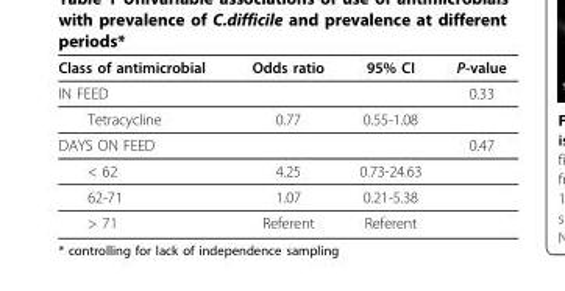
<table><thead><tr><td>Class of antimicrobial</td><td>Odds ratio</td><td>95% CI</td><td>P-value</td></tr></thead><tbody><tr><td>IN FEED</td><td></td><td></td><td>0.33</td></tr><tr><td>Tetracycline</td><td>0.77</td><td>0.55-1.08</td><td></td></tr><tr><td>DAYS ON FEED</td><td></td><td></td><td>0.47</td></tr><tr><td>&lt; 62</td><td>4.25</td><td>0.73-24.63</td><td></td></tr><tr><td>62-71</td><td>1.07</td><td>0.21-5.38</td><td></td></tr><tr><td>&gt; 71</td><td>Referent</td><td>Referent</td><td></td></tr></tbody></table>